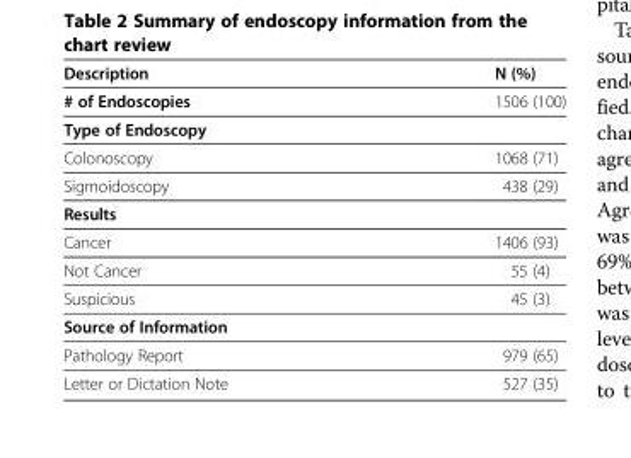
<table><thead><tr><td>Description</td><td>N (%)</td></tr></thead><tbody><tr><td># of Endoscopies</td><td>1506 (100)</td></tr><tr><td colspan="2">Type of Endoscopy</td></tr><tr><td>Colonoscopy</td><td>1068 (71)</td></tr><tr><td>Sigmoidoscopy</td><td>438 (29)</td></tr><tr><td colspan="2">Results</td></tr><tr><td>Cancer</td><td>1406 (93)</td></tr><tr><td>Not Cancer</td><td>55 (4)</td></tr><tr><td>Suspicious</td><td>45 (3)</td></tr><tr><td colspan="2">Source of Information</td></tr><tr><td>Pathology Report</td><td>979 (65)</td></tr><tr><td>Letter or Dictation Note</td><td>527 (35)</td></tr></tbody></table>